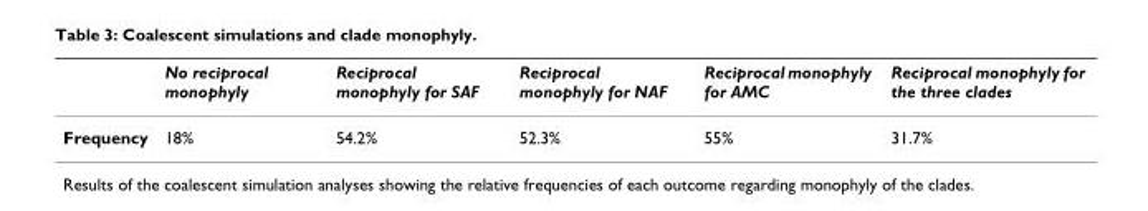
<table><thead><tr><td></td><td>No reciprocal monophyly</td><td>Reciprocal monophyly for SAF</td><td>Reciprocal monophyly for NAF</td><td>Reciprocal monophyly for AMC</td><td>Reciprocal monophyly for the three clades</td></tr></thead><tbody><tr><td>Frequency</td><td>18%</td><td>54.2%</td><td>52.3%</td><td>55%</td><td>31.7%</td></tr></tbody></table>